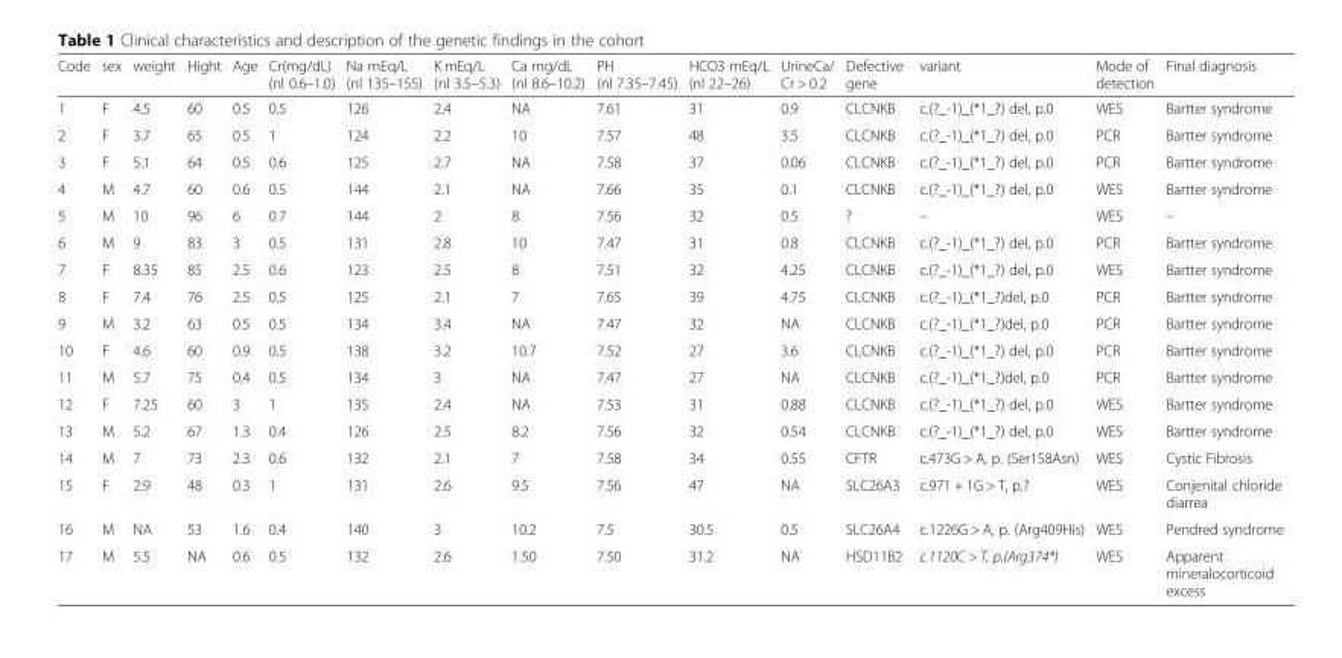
<table><thead><tr><td>Code</td><td>sex</td><td>weight</td><td>Hight</td><td>Age</td><td>Cr(mg/dL) (nl 0.6–1.0)</td><td>Na mEq/L (nl 135–155)</td><td>K mEq/L (nl 3.5–5.3)</td><td>Ca mg/dL (nl 8.6–10.2)</td><td>PH (nl 7.35–7.45)</td><td>HCO3 mEq/L (nl 22–26)</td><td>UrineCa/ Cr &gt; 0.2</td><td>Defective gene</td><td>variant</td><td>Mode of detection</td><td>Final diagnosis</td></tr></thead><tbody><tr><td>1</td><td>F</td><td>4.5</td><td>60</td><td>0.5</td><td>0.5</td><td>126</td><td>2.4</td><td>NA</td><td>7.61</td><td>31</td><td>0.9</td><td>CLCNKB</td><td>c.(?_-1)_(*1_?) del, p.0</td><td>WES</td><td>Bartter syndrome</td></tr><tr><td>2</td><td>F</td><td>3.7</td><td>65</td><td>0.5</td><td>1</td><td>124</td><td>2.2</td><td>10</td><td>7.57</td><td>48</td><td>3.5</td><td>CLCNKB</td><td>c.(?_-1)_(*1_?) del, p.0</td><td>PCR</td><td>Bartter syndrome</td></tr><tr><td>3</td><td>F</td><td>5.1</td><td>64</td><td>0.5</td><td>0.6</td><td>125</td><td>2.7</td><td>NA</td><td>7.58</td><td>37</td><td>0.06</td><td>CLCNKB</td><td>c.(?_-1)_(*1_?) del, p.0</td><td>PCR</td><td>Bartter syndrome</td></tr><tr><td>4</td><td>M</td><td>4.7</td><td>60</td><td>0.6</td><td>0.5</td><td>144</td><td>2.1</td><td>NA</td><td>7.66</td><td>35</td><td>0.1</td><td>CLCNKB</td><td>c.(?_-1)_(*1_?) del, p.0</td><td>WES</td><td>Bartter syndrome</td></tr><tr><td>5</td><td>M</td><td>10</td><td>96</td><td>6</td><td>0.7</td><td>144</td><td>2</td><td>8</td><td>7.56</td><td>32</td><td>0.5</td><td>?</td><td>–</td><td>WES</td><td>–</td></tr><tr><td>6</td><td>M</td><td>9</td><td>83</td><td>3</td><td>0.5</td><td>131</td><td>2.8</td><td>10</td><td>7.47</td><td>31</td><td>0.8</td><td>CLCNKB</td><td>c.(?_-1)_(*1_?) del, p.0</td><td>PCR</td><td>Bartter syndrome</td></tr><tr><td>7</td><td>F</td><td>8.35</td><td>85</td><td>2.5</td><td>0.6</td><td>123</td><td>2.5</td><td>8</td><td>7.51</td><td>32</td><td>4.25</td><td>CLCNKB</td><td>c.(?_-1)_(*1_?) del, p.0</td><td>WES</td><td>Bartter syndrome</td></tr><tr><td>8</td><td>F</td><td>7.4</td><td>76</td><td>2.5</td><td>0.5</td><td>125</td><td>2.1</td><td>7</td><td>7.65</td><td>39</td><td>4.75</td><td>CLCNKB</td><td>c.(?_-1)_(*1_?)del, p.0</td><td>PCR</td><td>Bartter syndrome</td></tr><tr><td>9</td><td>M</td><td>3.2</td><td>63</td><td>0.5</td><td>0.5</td><td>134</td><td>3.4</td><td>NA</td><td>7.47</td><td>32</td><td>NA</td><td>CLCNKB</td><td>c.(?_-1)_(*1_?)del, p.0</td><td>PCR</td><td>Bartter syndrome</td></tr><tr><td>10</td><td>F</td><td>4.6</td><td>60</td><td>0.9</td><td>0.5</td><td>138</td><td>3.2</td><td>10.7</td><td>7.52</td><td>27</td><td>3.6</td><td>CLCNKB</td><td>c.(?_-1)_(*1_?) del, p.0</td><td>PCR</td><td>Bartter syndrome</td></tr><tr><td>11</td><td>M</td><td>5.7</td><td>75</td><td>0.4</td><td>0.5</td><td>134</td><td>3</td><td>NA</td><td>7.47</td><td>27</td><td>NA</td><td>CLCNKB</td><td>c.(?_-1)_(*1_?)del, p.0</td><td>PCR</td><td>Bartter syndrome</td></tr><tr><td>12</td><td>F</td><td>7.25</td><td>60</td><td>3</td><td>1</td><td>135</td><td>2.4</td><td>NA</td><td>7.53</td><td>31</td><td>0.88</td><td>CLCNKB</td><td>c.(?_-1)_(*1_?) del, p.0</td><td>WES</td><td>Bartter syndrome</td></tr><tr><td>13</td><td>M</td><td>5.2</td><td>67</td><td>1.3</td><td>0.4</td><td>126</td><td>2.5</td><td>8.2</td><td>7.56</td><td>32</td><td>0.54</td><td>CLCNKB</td><td>c.(?_-1)_(*1_?) del, p.0</td><td>WES</td><td>Bartter syndrome</td></tr><tr><td>14</td><td>M</td><td>7</td><td>73</td><td>2.3</td><td>0.6</td><td>132</td><td>2.1</td><td>7</td><td>7.58</td><td>34</td><td>0.55</td><td>CFTR</td><td>c.473G &gt; A, p. (Ser158Asn)</td><td>WES</td><td>Cystic Fibrosis</td></tr><tr><td>15</td><td>F</td><td>2.9</td><td>48</td><td>0.3</td><td>1</td><td>131</td><td>2.6</td><td>9.5</td><td>7.56</td><td>47</td><td>NA</td><td>SLC26A3</td><td>c.971 + 1G &gt; T, p.?</td><td>WES</td><td>Conjenital chloride diarrea</td></tr><tr><td>16</td><td>M</td><td>NA</td><td>53</td><td>1.6</td><td>0.4</td><td>140</td><td>3</td><td>10.2</td><td>7.5</td><td>30.5</td><td>0.5</td><td>SLC26A4</td><td>c.1226G &gt; A, p. (Arg409His)</td><td>WES</td><td>Pendred syndrome</td></tr><tr><td>17</td><td>M</td><td>5.5</td><td>NA</td><td>0.6</td><td>0.5</td><td>132</td><td>2.6</td><td>1.50</td><td>7.50</td><td>31.2</td><td>NA</td><td>HSD11B2</td><td>c.1120C &gt; T, p.(Arg374*)</td><td>WES</td><td>Apparent mineralocorticoid excess</td></tr></tbody></table>